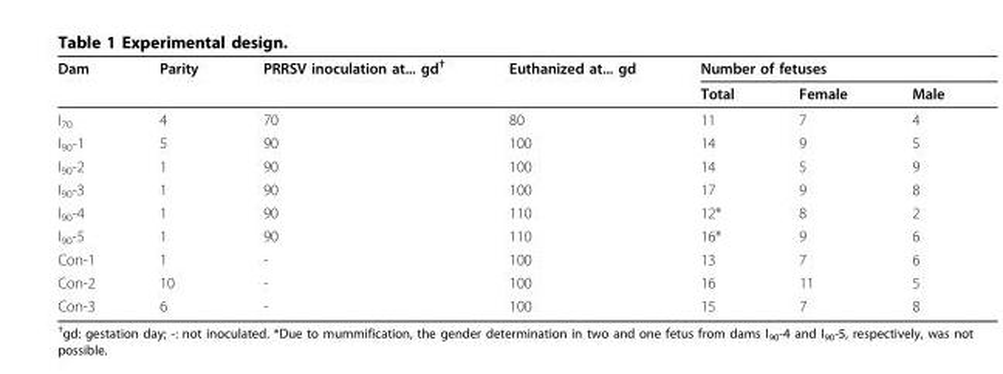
<table><thead><tr><td rowspan="2">Dam</td><td rowspan="2">Parity</td><td rowspan="2">PRRSV inoculation at... gd<sup>†</sup></td><td rowspan="2">Euthanized at... gd</td><td colspan="3">Number of fetuses</td></tr><tr><td>Total</td><td>Female</td><td>Male</td></tr></thead><tbody><tr><td>I<sub>70</sub></td><td>4</td><td>70</td><td>80</td><td>11</td><td>7</td><td>4</td></tr><tr><td>I<sub>90</sub>-1</td><td>5</td><td>90</td><td>100</td><td>14</td><td>9</td><td>5</td></tr><tr><td>I<sub>90</sub>-2</td><td>1</td><td>90</td><td>100</td><td>14</td><td>5</td><td>9</td></tr><tr><td>I<sub>90</sub>-3</td><td>1</td><td>90</td><td>100</td><td>17</td><td>9</td><td>8</td></tr><tr><td>I<sub>90</sub>-4</td><td>1</td><td>90</td><td>110</td><td>12*</td><td>8</td><td>2</td></tr><tr><td>I<sub>90</sub>-5</td><td>1</td><td>90</td><td>110</td><td>16*</td><td>9</td><td>6</td></tr><tr><td>Con-1</td><td>1</td><td>-</td><td>100</td><td>13</td><td>7</td><td>6</td></tr><tr><td>Con-2</td><td>10</td><td>-</td><td>100</td><td>16</td><td>11</td><td>5</td></tr><tr><td>Con-3</td><td>6</td><td>-</td><td>100</td><td>15</td><td>7</td><td>8</td></tr></tbody></table>